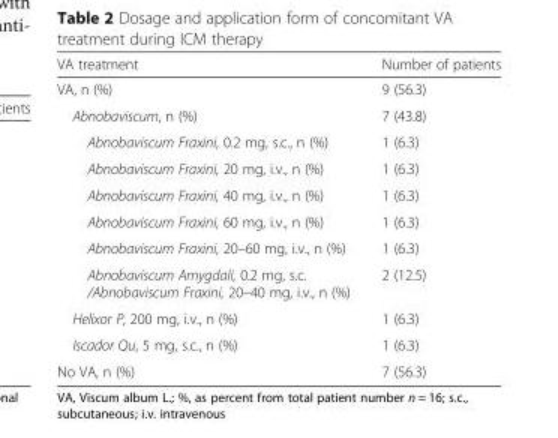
<table><thead><tr><td>VA treatment</td><td>Number of patients</td></tr></thead><tbody><tr><td>VA, n (%)</td><td>9 (56.3)</td></tr><tr><td>Abnobaviscum, n (%)</td><td>7 (43.8)</td></tr><tr><td>Abnobaviscum Fraxini, 0.2 mg, s.c., n (%)</td><td>1 (6.3)</td></tr><tr><td>Abnobaviscum Fraxini, 20 mg, i.v., n (%)</td><td>1 (6.3)</td></tr><tr><td>Abnobaviscum Fraxini, 40 mg, i.v., n (%)</td><td>1 (6.3)</td></tr><tr><td>Abnobaviscum Fraxini, 60 mg, i.v., n (%)</td><td>1 (6.3)</td></tr><tr><td>Abnobaviscum Fraxini, 20–60 mg, i.v., n (%)</td><td>1 (6.3)</td></tr><tr><td>Abnobaviscum Amygdali, 0.2 mg, s.c. /Abnobaviscum Fraxini, 20–40 mg, i.v., n (%)</td><td>2 (12.5)</td></tr><tr><td>Helixor P, 200 mg, i.v., n (%)</td><td>1 (6.3)</td></tr><tr><td>Iscador Qu, 5 mg, s.c., n (%)</td><td>1 (6.3)</td></tr><tr><td>No VA, n (%)</td><td>7 (56.3)</td></tr></tbody></table>